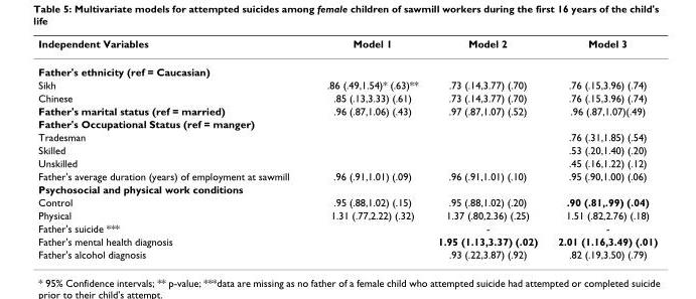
<table><thead><tr><td>Independent Variables</td><td>Model 1</td><td>Model 2</td><td>Model 3</td></tr></thead><tbody><tr><td colspan="4">Father&#x27;s ethnicity (ref = Caucasian)</td></tr><tr><td>Sikh</td><td>.86 (.49,1.54)* (.63)**</td><td>.73 (.14,3.77) (.70)</td><td>.76 (.15,3.96) (.74)</td></tr><tr><td>Chinese</td><td>.85 (.13,3.33) (.61)</td><td>.73 (.14,3.77) (.70)</td><td>.76 (.15,3.96) (.74)</td></tr><tr><td>Father&#x27;s marital status (ref = married)</td><td>.96 (.87,1.06) (.43)</td><td>.97 (.87,1.07) (.52)</td><td>.96 (.87,1.07)(.49)</td></tr><tr><td colspan="4">Father&#x27;s Occupational Status (ref = manger)</td></tr><tr><td>Tradesman</td><td></td><td></td><td>.76 (.31,1.85) (.54)</td></tr><tr><td>Skilled</td><td></td><td></td><td>.53 (.20,1.40) (.20)</td></tr><tr><td>Unskilled</td><td></td><td></td><td>.45 (.16,1.22) (.12)</td></tr><tr><td>Father&#x27;s average duration (years) of employment at sawmill</td><td>.96 (.91,1.01) (.09)</td><td>.96 (.91,1.01) (.10)</td><td>.95 (.90,1.00) (.06)</td></tr><tr><td colspan="4">Psychosocial and physical work conditions</td></tr><tr><td>Control</td><td>.95 (.88,1.02) (.15)</td><td>.95 (.88,1.02) (.20)</td><td>.90 (.81,.99) (.04)</td></tr><tr><td>Physical</td><td>1.31 (.77,2.22) (.32)</td><td>1.37 (.80,2.36) (.25)</td><td>1.51 (.82,2.76) (.18)</td></tr><tr><td>Father&#x27;s suicide ***</td><td></td><td>-</td><td>-</td></tr><tr><td>Father&#x27;s mental health diagnosis</td><td></td><td>1.95 (1.13,3.37) (.02)</td><td>2.01 (1.16,3.49) (.01)</td></tr><tr><td>Father&#x27;s alcohol diagnosis</td><td></td><td>.93 (.22,3.87) (.92)</td><td>.82 (.19,3.50) (.79)</td></tr></tbody></table>